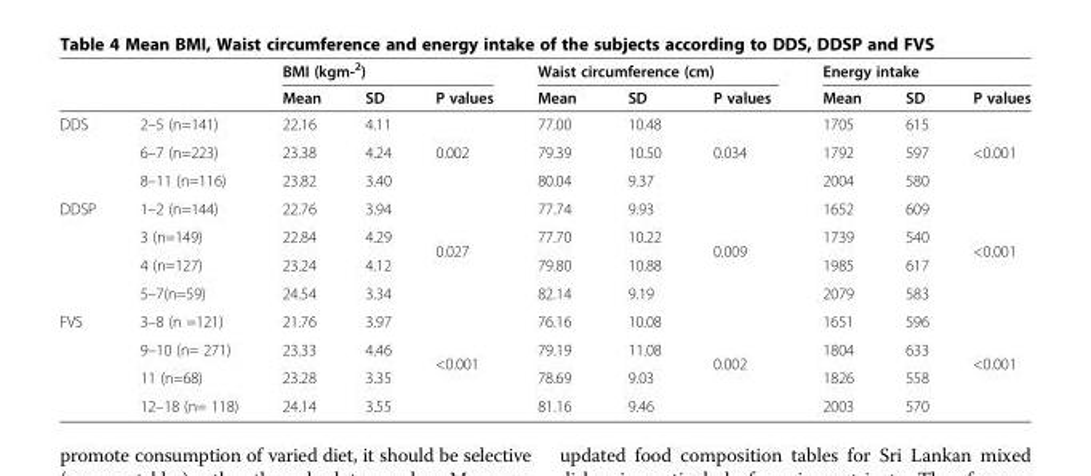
<table><thead><tr><td rowspan="2"></td><td rowspan="2"></td><td colspan="3">BMI (kgm-<sup>2</sup>)</td><td colspan="3">Waist circumference (cm)</td><td colspan="3">Energy intake</td></tr><tr><td>Mean</td><td>SD</td><td>P values</td><td>Mean</td><td>SD</td><td>P values</td><td>Mean</td><td>SD</td><td>P values</td></tr></thead><tbody><tr><td rowspan="3">DDS</td><td>2–5 (n=141)</td><td>22.16</td><td>4.11</td><td rowspan="3">0.002</td><td>77.00</td><td>10.48</td><td rowspan="3">0.034</td><td>1705</td><td>615</td><td rowspan="3">&lt;0.001</td></tr><tr><td>6–7 (n=223)</td><td>23.38</td><td>4.24</td><td>79.39</td><td>10.50</td><td>1792</td><td>597</td></tr><tr><td>8–11 (n=116)</td><td>23.82</td><td>3.40</td><td>80.04</td><td>9.37</td><td>2004</td><td>580</td></tr><tr><td rowspan="4">DDSP</td><td>1–2 (n=144)</td><td>22.76</td><td>3.94</td><td rowspan="4">0.027</td><td>77.74</td><td>9.93</td><td rowspan="4">0.009</td><td>1652</td><td>609</td><td rowspan="4">&lt;0.001</td></tr><tr><td>3 (n=149)</td><td>22.84</td><td>4.29</td><td>77.70</td><td>10.22</td><td>1739</td><td>540</td></tr><tr><td>4 (n=127)</td><td>23.24</td><td>4.12</td><td>79.80</td><td>10.88</td><td>1985</td><td>617</td></tr><tr><td>5–7(n=59)</td><td>24.54</td><td>3.34</td><td>82.14</td><td>9.19</td><td>2079</td><td>583</td></tr><tr><td rowspan="4">FVS</td><td>3–8 (n =121)</td><td>21.76</td><td>3.97</td><td rowspan="3">&lt;0.001</td><td>76.16</td><td>10.08</td><td rowspan="3">0.002</td><td>1651</td><td>596</td><td rowspan="3">&lt;0.001</td></tr><tr><td>9–10 (n= 271)</td><td>23.33</td><td>4.46</td><td>79.19</td><td>11.08</td><td>1804</td><td>633</td></tr><tr><td>11 (n=68)</td><td>23.28</td><td>3.35</td><td>78.69</td><td>9.03</td><td>1826</td><td>558</td></tr><tr><td>12–18 (n= 118)</td><td>24.14</td><td>3.55</td><td></td><td>81.16</td><td>9.46</td><td></td><td>2003</td><td>570</td><td></td></tr></tbody></table>